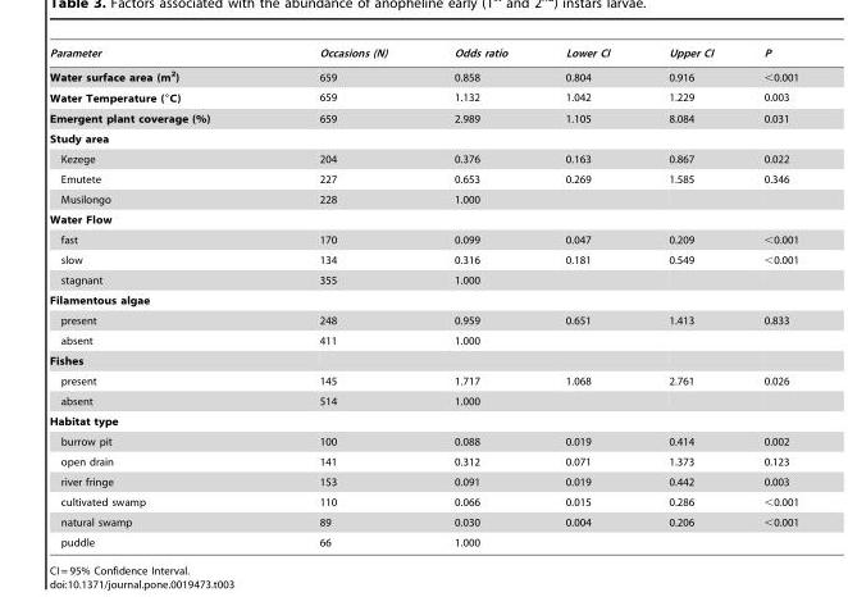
<table><thead><tr><td>Parameter</td><td>Occasions (N)</td><td>Odds ratio</td><td>Lower CI</td><td>Upper CI</td><td>P</td></tr></thead><tbody><tr><td>Water surface area (m<sup>2</sup>)</td><td>659</td><td>0.858</td><td>0.804</td><td>0.916</td><td>&lt;0.001</td></tr><tr><td>Water Temperature (°C)</td><td>659</td><td>1.132</td><td>1.042</td><td>1.229</td><td>0.003</td></tr><tr><td>Emergent plant coverage (%)</td><td>659</td><td>2.989</td><td>1.105</td><td>8.084</td><td>0.031</td></tr><tr><td colspan="6">Study area</td></tr><tr><td>Kezege</td><td>204</td><td>0.376</td><td>0.163</td><td>0.867</td><td>0.022</td></tr><tr><td>Emutete</td><td>227</td><td>0.653</td><td>0.269</td><td>1.585</td><td>0.346</td></tr><tr><td>Musilongo</td><td>228</td><td>1.000</td><td></td><td></td><td></td></tr><tr><td colspan="6">Water Flow</td></tr><tr><td>fast</td><td>170</td><td>0.099</td><td>0.047</td><td>0.209</td><td>&lt;0.001</td></tr><tr><td>slow</td><td>134</td><td>0.316</td><td>0.181</td><td>0.549</td><td>&lt;0.001</td></tr><tr><td>stagnant</td><td>355</td><td>1.000</td><td></td><td></td><td></td></tr><tr><td colspan="6">Filamentous algae</td></tr><tr><td>present</td><td>248</td><td>0.959</td><td>0.651</td><td>1.413</td><td>0.833</td></tr><tr><td>absent</td><td>411</td><td>1.000</td><td></td><td></td><td></td></tr><tr><td colspan="6">Fishes</td></tr><tr><td>present</td><td>145</td><td>1.717</td><td>1.068</td><td>2.761</td><td>0.026</td></tr><tr><td>absent</td><td>514</td><td>1.000</td><td></td><td></td><td></td></tr><tr><td colspan="6">Habitat type</td></tr><tr><td>burrow pit</td><td>100</td><td>0.088</td><td>0.019</td><td>0.414</td><td>0.002</td></tr><tr><td>open drain</td><td>141</td><td>0.312</td><td>0.071</td><td>1.373</td><td>0.123</td></tr><tr><td>river fringe</td><td>153</td><td>0.091</td><td>0.019</td><td>0.442</td><td>0.003</td></tr><tr><td>cultivated swamp</td><td>110</td><td>0.066</td><td>0.015</td><td>0.286</td><td>&lt;0.001</td></tr><tr><td>natural swamp</td><td>89</td><td>0.030</td><td>0.004</td><td>0.206</td><td>&lt;0.001</td></tr><tr><td>puddle</td><td>66</td><td>1.000</td><td></td><td></td><td></td></tr></tbody></table>